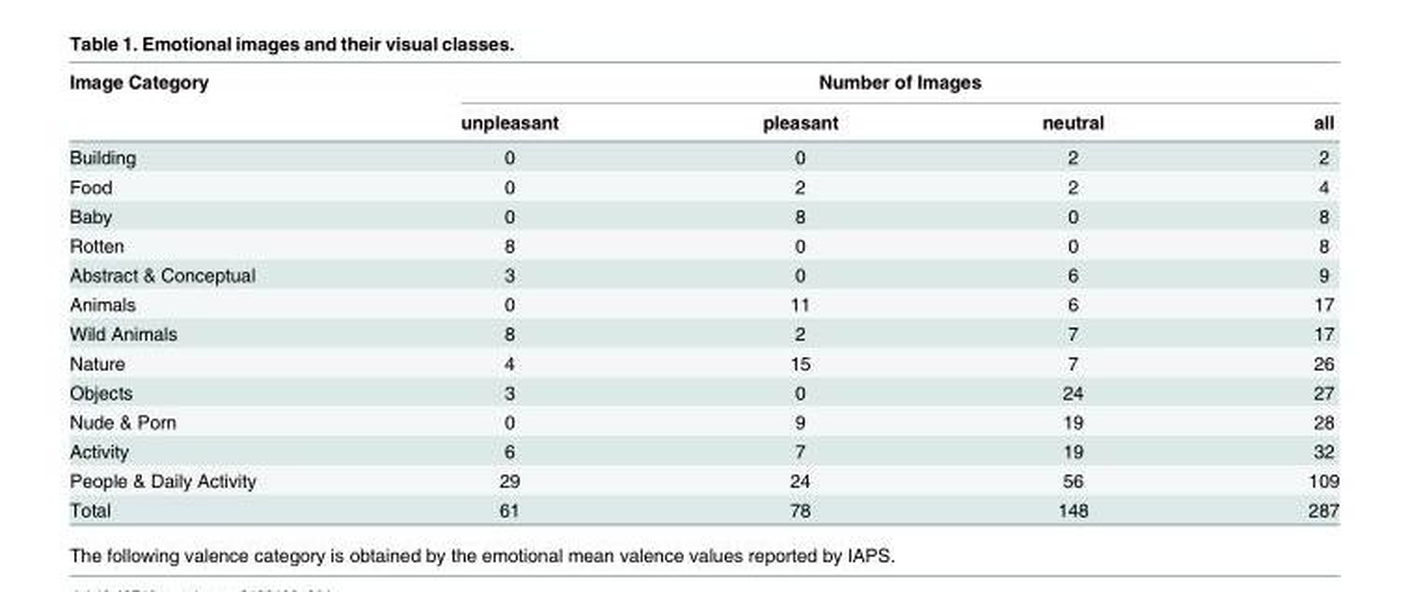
<table><thead><tr><td rowspan="2">Image Category</td><td colspan="4">Number of Images</td></tr><tr><td>unpleasant</td><td>pleasant</td><td>neutral</td><td>all</td></tr></thead><tbody><tr><td>Building</td><td>0</td><td>0</td><td>2</td><td>2</td></tr><tr><td>Food</td><td>0</td><td>2</td><td>2</td><td>4</td></tr><tr><td>Baby</td><td>0</td><td>8</td><td>0</td><td>8</td></tr><tr><td>Rotten</td><td>8</td><td>0</td><td>0</td><td>8</td></tr><tr><td>Abstract &amp; Conceptual</td><td>3</td><td>0</td><td>6</td><td>9</td></tr><tr><td>Animals</td><td>0</td><td>11</td><td>6</td><td>17</td></tr><tr><td>Wild Animals</td><td>8</td><td>2</td><td>7</td><td>17</td></tr><tr><td>Nature</td><td>4</td><td>15</td><td>7</td><td>26</td></tr><tr><td>Objects</td><td>3</td><td>0</td><td>24</td><td>27</td></tr><tr><td>Nude &amp; Porn</td><td>0</td><td>9</td><td>19</td><td>28</td></tr><tr><td>Activity</td><td>6</td><td>7</td><td>19</td><td>32</td></tr><tr><td>People &amp; Daily Activity</td><td>29</td><td>24</td><td>56</td><td>109</td></tr><tr><td>Total</td><td>61</td><td>78</td><td>148</td><td>287</td></tr></tbody></table>